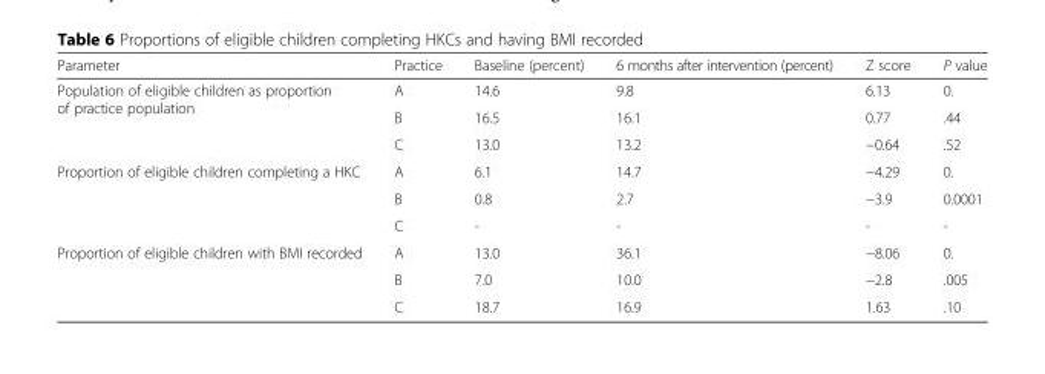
<table><thead><tr><td>Parameter</td><td>Practice</td><td>Baseline (percent)</td><td>6 months after intervention (percent)</td><td>Z score</td><td>P value</td></tr></thead><tbody><tr><td rowspan="3">Population of eligible children as proportion of practice population</td><td>A</td><td>14.6</td><td>9.8</td><td>6.13</td><td>0.</td></tr><tr><td>B</td><td>16.5</td><td>16.1</td><td>0.77</td><td>.44</td></tr><tr><td>C</td><td>13.0</td><td>13.2</td><td>−0.64</td><td>.52</td></tr><tr><td rowspan="3">Proportion of eligible children completing a HKC</td><td>A</td><td>6.1</td><td>14.7</td><td>−4.29</td><td>0.</td></tr><tr><td>B</td><td>0.8</td><td>2.7</td><td>−3.9</td><td>0.0001</td></tr><tr><td>C</td><td>-</td><td>-</td><td>-</td><td>-</td></tr><tr><td rowspan="3">Proportion of eligible children with BMI recorded</td><td>A</td><td>13.0</td><td>36.1</td><td>−8.06</td><td>0.</td></tr><tr><td>B</td><td>7.0</td><td>10.0</td><td>−2.8</td><td>.005</td></tr><tr><td>C</td><td>18.7</td><td>16.9</td><td>1.63</td><td>.10</td></tr></tbody></table>